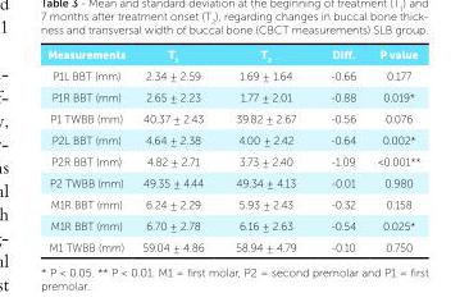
<table><thead><tr><td>Measurements</td><td>T<sub>1</sub></td><td>T<sub>2</sub></td><td>Diff.</td><td>P value</td></tr></thead><tbody><tr><td>P1L BBT (mm)</td><td>2.34 ± 2.59</td><td>1.69 ± 1.64</td><td>-0.66</td><td>0.177</td></tr><tr><td>P1R BBT (mm)</td><td>2.65 ± 2.23</td><td>1.77 ± 2.01</td><td>-0.88</td><td>0.019*</td></tr><tr><td>P1 TWBB (mm)</td><td>40.37 ± 2.43</td><td>39.82 ± 2.67</td><td>-0.56</td><td>0.076</td></tr><tr><td>P2L BBT (mm)</td><td>4.64 ± 2.38</td><td>4.00 ± 2.42</td><td>-0.64</td><td>0.002*</td></tr><tr><td>P2R BBT (mm)</td><td>4.82 ± 2.71</td><td>3.73 ± 2.40</td><td>-1.09</td><td>&lt;0.001**</td></tr><tr><td>P2 TWBB (mm)</td><td>49.35 ± 4.44</td><td>49.34 ± 4.13</td><td>-0.01</td><td>0.980</td></tr><tr><td>M1R BBT (mm)</td><td>6.24 ± 2.29</td><td>5.93 ± 2.43</td><td>-0.32</td><td>0.158</td></tr><tr><td>M1R BBT (mm)</td><td>6.70 ± 2.78</td><td>6.16 ± 2.63</td><td>-0.54</td><td>0.025*</td></tr><tr><td>M1 TWBB (mm)</td><td>59.04 ± 4.86</td><td>58.94 ± 4.79</td><td>-0.10</td><td>0.750</td></tr></tbody></table>